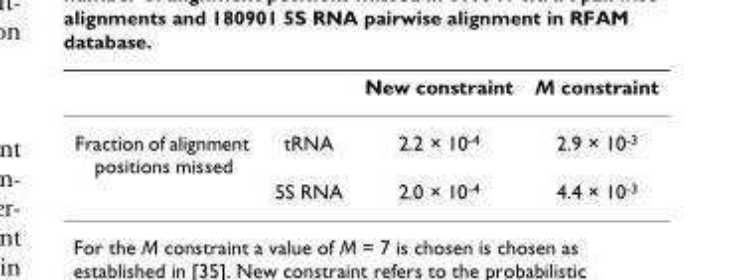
<table><thead><tr><td></td><td></td><td>New constraint</td><td>M constraint</td></tr></thead><tbody><tr><td rowspan="2">Fraction of alignment positions missed</td><td>tRNA</td><td>2.2 × 10<sup>-4</sup></td><td>2.9 × 10<sup>-3</sup></td></tr><tr><td>5S RNA</td><td>2.0 × 10<sup>-4</sup></td><td>4.4 × 10<sup>-3</sup></td></tr></tbody></table>